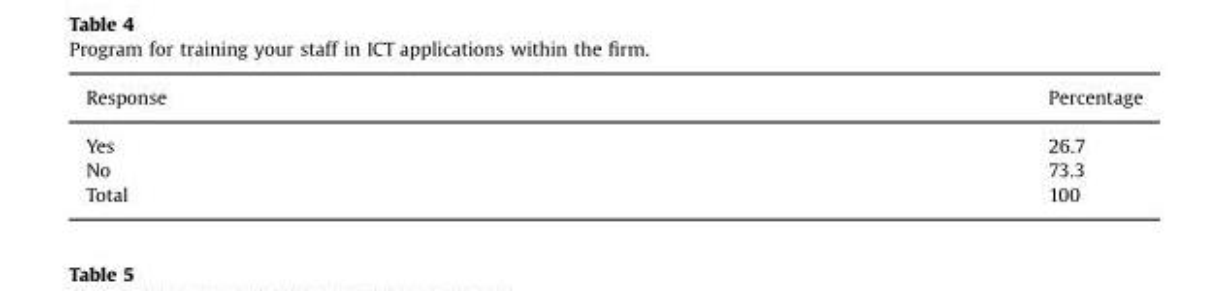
<table><thead><tr><td>Response</td><td>Percentage</td></tr></thead><tbody><tr><td>Yes</td><td>26.7</td></tr><tr><td>No</td><td>73.3</td></tr><tr><td>Total</td><td>100</td></tr></tbody></table>